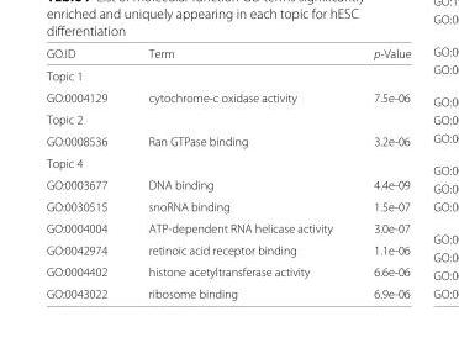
<table><thead><tr><td>GO.ID</td><td>Term</td><td>p-Value</td></tr></thead><tbody><tr><td colspan="3">Topic 1</td></tr><tr><td>GO:0004129</td><td>cytochrome-c oxidase activity</td><td>7.5e-06</td></tr><tr><td colspan="3">Topic 2</td></tr><tr><td>GO:0008536</td><td>Ran GTPase binding</td><td>3.2e-06</td></tr><tr><td colspan="3">Topic 4</td></tr><tr><td>GO:0003677</td><td>DNA binding</td><td>4.4e-09</td></tr><tr><td>GO:0030515</td><td>snoRNA binding</td><td>1.5e-07</td></tr><tr><td>GO:0004004</td><td>ATP-dependent RNA helicase activity</td><td>3.0e-07</td></tr><tr><td>GO:0042974</td><td>retinoic acid receptor binding</td><td>1.1e-06</td></tr><tr><td>GO:0004402</td><td>histone acetyltransferase activity</td><td>6.6e-06</td></tr><tr><td>GO:0043022</td><td>ribosome binding</td><td>6.9e-06</td></tr></tbody></table>